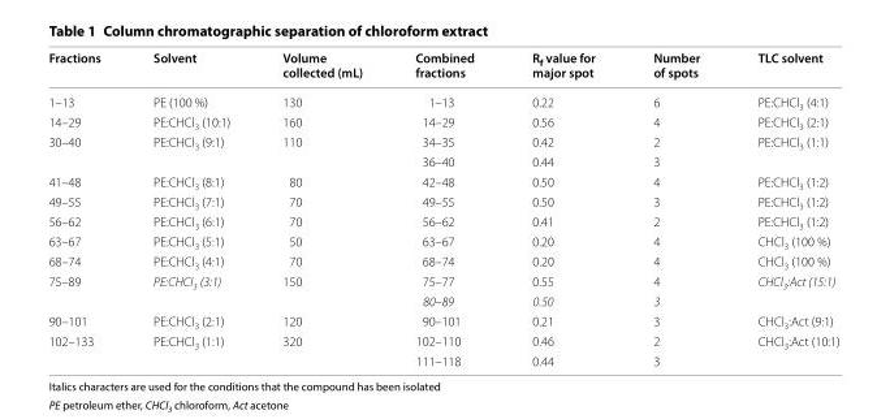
<table><thead><tr><td>Fractions</td><td>Solvent</td><td>Volume collected (mL)</td><td>Combined fractions</td><td>R<sub>f</sub> value for major spot</td><td>Number of spots</td><td>TLC solvent</td></tr></thead><tbody><tr><td>1–13</td><td>PE (100 %)</td><td>130</td><td>1–13</td><td>0.22</td><td>6</td><td>PE:CHCl<sub>3</sub> (4:1)</td></tr><tr><td>14–29</td><td>PE:CHCl<sub>3</sub> (10:1)</td><td>160</td><td>14–29</td><td>0.56</td><td>4</td><td>PE:CHCl<sub>3</sub> (2:1)</td></tr><tr><td rowspan="2">30–40</td><td rowspan="2">PE:CHCl<sub>3</sub> (9:1)</td><td rowspan="2">110</td><td>34–35</td><td>0.42</td><td>2</td><td rowspan="2">PE:CHCl<sub>3</sub> (1:1)</td></tr><tr><td>36–40</td><td>0.44</td><td>3</td></tr><tr><td>41–48</td><td>PE:CHCl<sub>3</sub> (8:1)</td><td>80</td><td>42–48</td><td>0.50</td><td>4</td><td>PE:CHCl<sub>3</sub> (1:2)</td></tr><tr><td>49–55</td><td>PE:CHCl<sub>3</sub> (7:1)</td><td>70</td><td>49–55</td><td>0.50</td><td>3</td><td>PE:CHCl<sub>3</sub> (1:2)</td></tr><tr><td>56–62</td><td>PE:CHCl<sub>3</sub> (6:1)</td><td>70</td><td>56–62</td><td>0.41</td><td>2</td><td>PE:CHCl<sub>3</sub> (1:2)</td></tr><tr><td>63–67</td><td>PE:CHCl<sub>3</sub> (5:1)</td><td>50</td><td>63–67</td><td>0.20</td><td>4</td><td>CHCl<sub>3</sub> (100 %)</td></tr><tr><td>68–74</td><td>PE:CHCl<sub>3</sub> (4:1)</td><td>70</td><td>68–74</td><td>0.20</td><td>4</td><td>CHCl<sub>3</sub> (100 %)</td></tr><tr><td rowspan="2">75–89</td><td rowspan="2">PE:CHCl<sub>3</sub> (3:1)</td><td rowspan="2">150</td><td>75–77</td><td>0.55</td><td>4</td><td rowspan="2">CHCl<sub>3</sub>:Act (15:1)</td></tr><tr><td>80–89</td><td>0.50</td><td>3</td></tr><tr><td>90–101</td><td>PE:CHCl<sub>3</sub> (2:1)</td><td>120</td><td>90–101</td><td>0.21</td><td>3</td><td>CHCl<sub>3</sub>:Act (9:1)</td></tr><tr><td rowspan="2">102–133</td><td rowspan="2">PE:CHCl<sub>3</sub> (1:1)</td><td rowspan="2">320</td><td>102–110</td><td>0.46</td><td>2</td><td rowspan="2">CHCl<sub>3</sub>:Act (10:1)</td></tr><tr><td>111–118</td><td>0.44</td><td>3</td></tr></tbody></table>